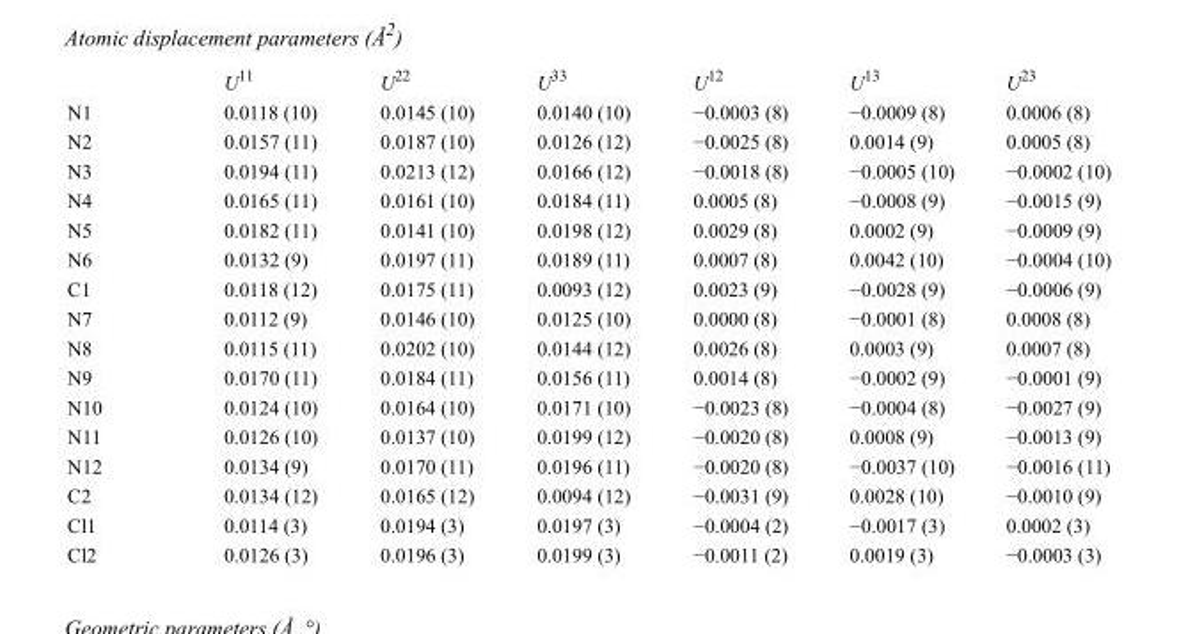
<table><thead><tr><td></td><td>U<sup>11</sup></td><td>U<sup>22</sup></td><td>U<sup>33</sup></td><td>U<sup>12</sup></td><td>U<sup>13</sup></td><td>U<sup>23</sup></td></tr></thead><tbody><tr><td>N1</td><td>0.0118 (10)</td><td>0.0145 (10)</td><td>0.0140 (10)</td><td>−0.0003 (8)</td><td>−0.0009 (8)</td><td>0.0006 (8)</td></tr><tr><td>N2</td><td>0.0157 (11)</td><td>0.0187 (10)</td><td>0.0126 (12)</td><td>−0.0025 (8)</td><td>0.0014 (9)</td><td>0.0005 (8)</td></tr><tr><td>N3</td><td>0.0194 (11)</td><td>0.0213 (12)</td><td>0.0166 (12)</td><td>−0.0018 (8)</td><td>−0.0005 (10)</td><td>−0.0002 (10)</td></tr><tr><td>N4</td><td>0.0165 (11)</td><td>0.0161 (10)</td><td>0.0184 (11)</td><td>0.0005 (8)</td><td>−0.0008 (9)</td><td>−0.0015 (9)</td></tr><tr><td>N5</td><td>0.0182 (11)</td><td>0.0141 (10)</td><td>0.0198 (12)</td><td>0.0029 (8)</td><td>0.0002 (9)</td><td>−0.0009 (9)</td></tr><tr><td>N6</td><td>0.0132 (9)</td><td>0.0197 (11)</td><td>0.0189 (11)</td><td>0.0007 (8)</td><td>0.0042 (10)</td><td>−0.0004 (10)</td></tr><tr><td>C1</td><td>0.0118 (12)</td><td>0.0175 (11)</td><td>0.0093 (12)</td><td>0.0023 (9)</td><td>−0.0028 (9)</td><td>−0.0006 (9)</td></tr><tr><td>N7</td><td>0.0112 (9)</td><td>0.0146 (10)</td><td>0.0125 (10)</td><td>0.0000 (8)</td><td>−0.0001 (8)</td><td>0.0008 (8)</td></tr><tr><td>N8</td><td>0.0115 (11)</td><td>0.0202 (10)</td><td>0.0144 (12)</td><td>0.0026 (8)</td><td>0.0003 (9)</td><td>0.0007 (8)</td></tr><tr><td>N9</td><td>0.0170 (11)</td><td>0.0184 (11)</td><td>0.0156 (11)</td><td>0.0014 (8)</td><td>−0.0002 (9)</td><td>−0.0001 (9)</td></tr><tr><td>N10</td><td>0.0124 (10)</td><td>0.0164 (10)</td><td>0.0171 (10)</td><td>−0.0023 (8)</td><td>−0.0004 (8)</td><td>−0.0027 (9)</td></tr><tr><td>N11</td><td>0.0126 (10)</td><td>0.0137 (10)</td><td>0.0199 (12)</td><td>−0.0020 (8)</td><td>0.0008 (9)</td><td>−0.0013 (9)</td></tr><tr><td>N12</td><td>0.0134 (9)</td><td>0.0170 (11)</td><td>0.0196 (11)</td><td>−0.0020 (8)</td><td>−0.0037 (10)</td><td>−0.0016 (11)</td></tr><tr><td>C2</td><td>0.0134 (12)</td><td>0.0165 (12)</td><td>0.0094 (12)</td><td>−0.0031 (9)</td><td>0.0028 (10)</td><td>−0.0010 (9)</td></tr><tr><td>Cl1</td><td>0.0114 (3)</td><td>0.0194 (3)</td><td>0.0197 (3)</td><td>−0.0004 (2)</td><td>−0.0017 (3)</td><td>0.0002 (3)</td></tr><tr><td>Cl2</td><td>0.0126 (3)</td><td>0.0196 (3)</td><td>0.0199 (3)</td><td>−0.0011 (2)</td><td>0.0019 (3)</td><td>−0.0003 (3)</td></tr></tbody></table>